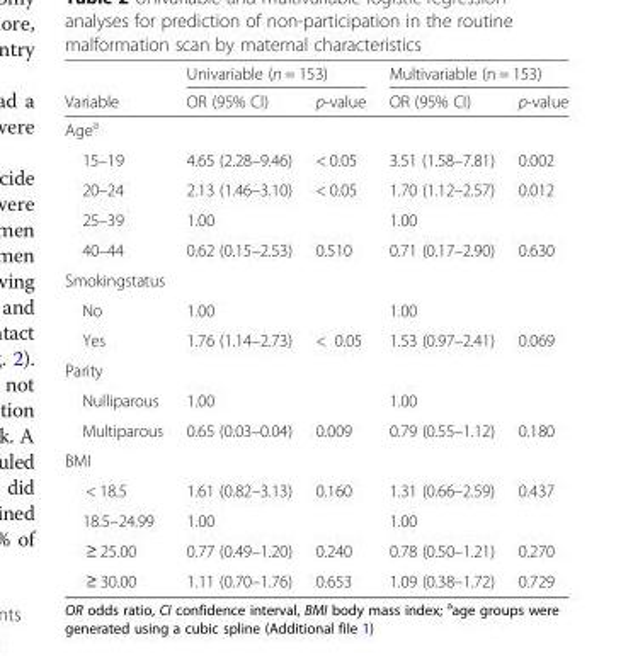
<table><thead><tr><td rowspan="2">Variable</td><td colspan="2">Univariable (n = 153)</td><td colspan="2">Multivariable (n = 153)</td></tr><tr><td>OR (95% CI)</td><td>p-value</td><td>OR (95% CI)</td><td>p-value</td></tr></thead><tbody><tr><td colspan="5">Age<sup>a</sup></td></tr><tr><td>15–19</td><td>4.65 (2.28–9.46)</td><td>&lt; 0.05</td><td>3.51 (1.58–7.81)</td><td>0.002</td></tr><tr><td>20–24</td><td>2.13 (1.46–3.10)</td><td>&lt; 0.05</td><td>1.70 (1.12–2.57)</td><td>0.012</td></tr><tr><td>25–39</td><td>1.00</td><td></td><td>1.00</td><td></td></tr><tr><td>40–44</td><td>0.62 (0.15–2.53)</td><td>0.510</td><td>0.71 (0.17–2.90)</td><td>0.630</td></tr><tr><td colspan="5">Smokingstatus</td></tr><tr><td>No</td><td>1.00</td><td></td><td>1.00</td><td></td></tr><tr><td>Yes</td><td>1.76 (1.14–2.73)</td><td>&lt; 0.05</td><td>1.53 (0.97–2.41)</td><td>0.069</td></tr><tr><td colspan="5">Parity</td></tr><tr><td>Nulliparous</td><td>1.00</td><td></td><td>1.00</td><td></td></tr><tr><td>Multiparous</td><td>0.65 (0.03–0.04)</td><td>0.009</td><td>0.79 (0.55–1.12)</td><td>0.180</td></tr><tr><td colspan="5">BMI</td></tr><tr><td>&lt; 18.5</td><td>1.61 (0.82–3.13)</td><td>0.160</td><td>1.31 (0.66–2.59)</td><td>0.437</td></tr><tr><td>18.5–24.99</td><td>1.00</td><td></td><td>1.00</td><td></td></tr><tr><td>≥ 25.00</td><td>0.77 (0.49–1.20)</td><td>0.240</td><td>0.78 (0.50–1.21)</td><td>0.270</td></tr><tr><td>≥ 30.00</td><td>1.11 (0.70–1.76)</td><td>0.653</td><td>1.09 (0.38–1.72)</td><td>0.729</td></tr></tbody></table>